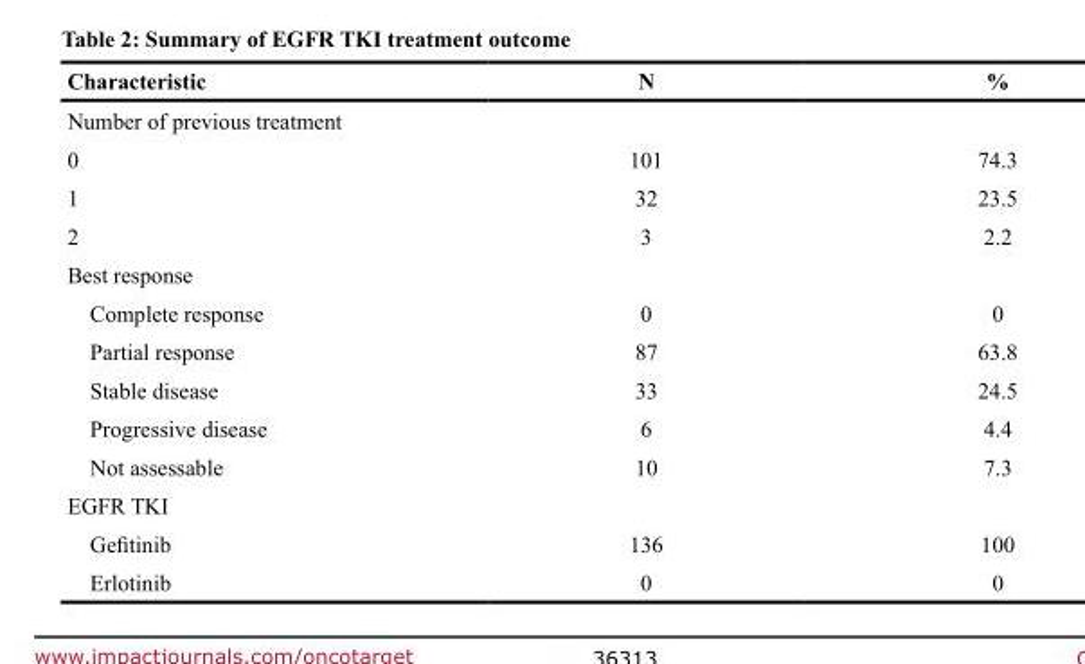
<table><thead><tr><td>Characteristic</td><td>N</td><td>%</td></tr></thead><tbody><tr><td colspan="3">Number of previous treatment</td></tr><tr><td>0</td><td>101</td><td>74.3</td></tr><tr><td>1</td><td>32</td><td>23.5</td></tr><tr><td>2</td><td>3</td><td>2.2</td></tr><tr><td colspan="3">Best response</td></tr><tr><td>Complete response</td><td>0</td><td>0</td></tr><tr><td>Partial response</td><td>87</td><td>63.8</td></tr><tr><td>Stable disease</td><td>33</td><td>24.5</td></tr><tr><td>Progressive disease</td><td>6</td><td>4.4</td></tr><tr><td>Not assessable</td><td>10</td><td>7.3</td></tr><tr><td colspan="3">EGFR TKI</td></tr><tr><td>Gefitinib</td><td>136</td><td>100</td></tr><tr><td>Erlotinib</td><td>0</td><td>0</td></tr></tbody></table>